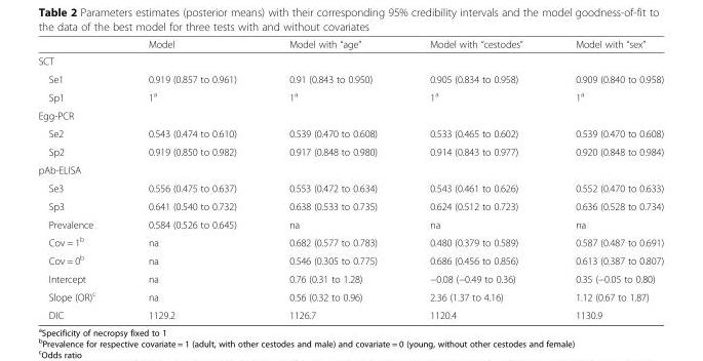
<table><thead><tr><td></td><td>Model</td><td>Model with “age”</td><td>Model with “cestodes”</td><td>Model with “sex”</td></tr></thead><tbody><tr><td colspan="5">SCT</td></tr><tr><td>Se1</td><td>0.919 (0.857 to 0.961)</td><td>0.91 (0.843 to 0.950)</td><td>0.905 (0.834 to 0.958)</td><td>0.909 (0.840 to 0.958)</td></tr><tr><td>Sp1</td><td>1<sup>a</sup></td><td>1<sup>a</sup></td><td>1<sup>a</sup></td><td>1<sup>a</sup></td></tr><tr><td colspan="5">Egg-PCR</td></tr><tr><td>Se2</td><td>0.543 (0.474 to 0.610)</td><td>0.539 (0.470 to 0.608)</td><td>0.533 (0.465 to 0.602)</td><td>0.539 (0.470 to 0.608)</td></tr><tr><td>Sp2</td><td>0.919 (0.850 to 0.982)</td><td>0.917 (0.848 to 0.980)</td><td>0.914 (0.843 to 0.977)</td><td>0.920 (0.848 to 0.984)</td></tr><tr><td colspan="5">pAb-ELISA</td></tr><tr><td>Se3</td><td>0.556 (0.475 to 0.637)</td><td>0.553 (0.472 to 0.634)</td><td>0.543 (0.461 to 0.626)</td><td>0.552 (0.470 to 0.633)</td></tr><tr><td>Sp3</td><td>0.641 (0.540 to 0.732)</td><td>0.638 (0.533 to 0.735)</td><td>0.624 (0.512 to 0.723)</td><td>0.636 (0.528 to 0.734)</td></tr><tr><td>Prevalence</td><td>0.584 (0.526 to 0.645)</td><td>na</td><td>na</td><td>na</td></tr><tr><td>Cov = 1<sup>b</sup></td><td>na</td><td>0.682 (0.577 to 0.783)</td><td>0.480 (0.379 to 0.589)</td><td>0.587 (0.487 to 0.691)</td></tr><tr><td>Cov = 0<sup>b</sup></td><td>na</td><td>0.546 (0.305 to 0.775)</td><td>0.686 (0.456 to 0.856)</td><td>0.613 (0.387 to 0.807)</td></tr><tr><td>Intercept</td><td>na</td><td>0.76 (0.31 to 1.28)</td><td>−0.08 (−0.49 to 0.36)</td><td>0.35 (−0.05 to 0.80)</td></tr><tr><td>Slope (OR)<sup>c</sup></td><td>na</td><td>0.56 (0.32 to 0.96)</td><td>2.36 (1.37 to 4.16)</td><td>1.12 (0.67 to 1.87)</td></tr><tr><td>DIC</td><td>1129.2</td><td>1126.7</td><td>1120.4</td><td>1130.9</td></tr></tbody></table>